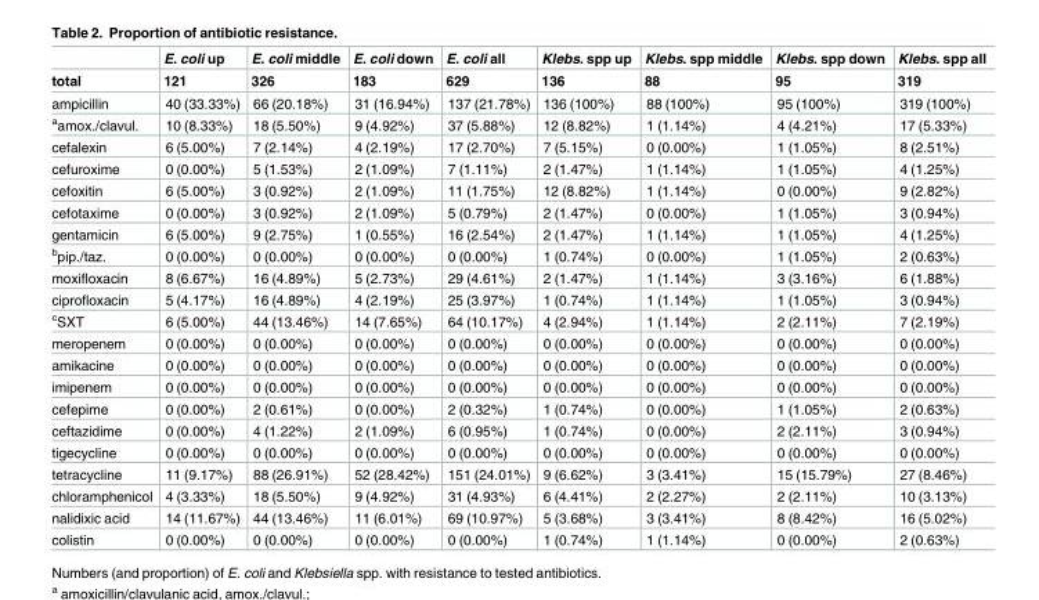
<table><thead><tr><td rowspan="2">total</td><td rowspan="2">E. coli up 121</td><td rowspan="2">E. coli middle 326</td><td rowspan="2">E. coli down 183</td><td rowspan="2">E. coli all 629</td><td rowspan="2">Klebs. spp up 136</td><td rowspan="2">Klebs. spp middle 88</td><td rowspan="2">Klebs. spp down 95</td><td rowspan="2">Klebs. spp all 319</td></tr><tr></tr></thead><tbody><tr><td>ampicillin</td><td>40 (33.33%)</td><td>66 (20.18%)</td><td>31 (16.94%)</td><td>137 (21.78%)</td><td>136 (100%)</td><td>88 (100%)</td><td>95 (100%)</td><td>319 (100%)</td></tr><tr><td><sup>a</sup>amox./clavul.</td><td>10 (8.33%)</td><td>18 (5.50%)</td><td>9 (4.92%)</td><td>37 (5.88%)</td><td>12 (8.82%)</td><td>1 (1.14%)</td><td>4 (4.21%)</td><td>17 (5.33%)</td></tr><tr><td>cefalexin</td><td>6 (5.00%)</td><td>7 (2.14%)</td><td>4 (2.19%)</td><td>17 (2.70%)</td><td>7 (5.15%)</td><td>0 (0.00%)</td><td>1 (1.05%)</td><td>8 (2.51%)</td></tr><tr><td>cefuroxime</td><td>0 (0.00%)</td><td>5 (1.53%)</td><td>2 (1.09%)</td><td>7 (1.11%)</td><td>2 (1.47%)</td><td>1 (1.14%)</td><td>1 (1.05%)</td><td>4 (1.25%)</td></tr><tr><td>cefoxitin</td><td>6 (5.00%)</td><td>3 (0.92%)</td><td>2 (1.09%)</td><td>11 (1.75%)</td><td>12 (8.82%)</td><td>1 (1.14%)</td><td>0 (0.00%)</td><td>9 (2.82%)</td></tr><tr><td>cefotaxime</td><td>0 (0.00%)</td><td>3 (0.92%)</td><td>2 (1.09%)</td><td>5 (0.79%)</td><td>2 (1.47%)</td><td>0 (0.00%)</td><td>1 (1.05%)</td><td>3 (0.94%)</td></tr><tr><td>gentamicin</td><td>6 (5.00%)</td><td>9 (2.75%)</td><td>1 (0.55%)</td><td>16 (2.54%)</td><td>2 (1.47%)</td><td>1 (1.14%)</td><td>1 (1.05%)</td><td>4 (1.25%)</td></tr><tr><td><sup>b</sup>pip./taz.</td><td>0 (0.00%)</td><td>0 (0.00%)</td><td>0 (0.00%)</td><td>0 (0.00%)</td><td>1 (0.74%)</td><td>0 (0.00%)</td><td>1 (1.05%)</td><td>2 (0.63%)</td></tr><tr><td>moxifloxacin</td><td>8 (6.67%)</td><td>16 (4.89%)</td><td>5 (2.73%)</td><td>29 (4.61%)</td><td>2 (1.47%)</td><td>1 (1.14%)</td><td>3 (3.16%)</td><td>6 (1.88%)</td></tr><tr><td>ciprofloxacin</td><td>5 (4.17%)</td><td>16 (4.89%)</td><td>4 (2.19%)</td><td>25 (3.97%)</td><td>1 (0.74%)</td><td>1 (1.14%)</td><td>1 (1.05%)</td><td>3 (0.94%)</td></tr><tr><td><sup>c</sup>SXT</td><td>6 (5.00%)</td><td>44 (13.46%)</td><td>14 (7.65%)</td><td>64 (10.17%)</td><td>4 (2.94%)</td><td>1 (1.14%)</td><td>2 (2.11%)</td><td>7 (2.19%)</td></tr><tr><td>meropenem</td><td>0 (0.00%)</td><td>0 (0.00%)</td><td>0 (0.00%)</td><td>0 (0.00%)</td><td>0 (0.00%)</td><td>0 (0.00%)</td><td>0 (0.00%)</td><td>0 (0.00%)</td></tr><tr><td>amikacine</td><td>0 (0.00%)</td><td>0 (0.00%)</td><td>0 (0.00%)</td><td>0 (0.00%)</td><td>0 (0.00%)</td><td>0 (0.00%)</td><td>0 (0.00%)</td><td>0 (0.00%)</td></tr><tr><td>imipenem</td><td>0 (0.00%)</td><td>0 (0.00%)</td><td>0 (0.00%)</td><td>0 (0.00%)</td><td>0 (0.00%)</td><td>0 (0.00%)</td><td>0 (0.00%)</td><td>0 (0.00%)</td></tr><tr><td>cefepime</td><td>0 (0.00%)</td><td>2 (0.61%)</td><td>0 (0.00%)</td><td>2 (0.32%)</td><td>1 (0.74%)</td><td>0 (0.00%)</td><td>1 (1.05%)</td><td>2 (0.63%)</td></tr><tr><td>ceftazidime</td><td>0 (0.00%)</td><td>4 (1.22%)</td><td>2 (1.09%)</td><td>6 (0.95%)</td><td>1 (0.74%)</td><td>0 (0.00%)</td><td>2 (2.11%)</td><td>3 (0.94%)</td></tr><tr><td>tigecycline</td><td>0 (0.00%)</td><td>0 (0.00%)</td><td>0 (0.00%)</td><td>0 (0.00%)</td><td>0 (0.00%)</td><td>0 (0.00%)</td><td>0 (0.00%)</td><td>0 (0.00%)</td></tr><tr><td>tetracycline</td><td>11 (9.17%)</td><td>88 (26.91%)</td><td>52 (28.42%)</td><td>151 (24.01%)</td><td>9 (6.62%)</td><td>3 (3.41%)</td><td>15 (15.79%)</td><td>27 (8.46%)</td></tr><tr><td>chloramphenicol</td><td>4 (3.33%)</td><td>18 (5.50%)</td><td>9 (4.92%)</td><td>31 (4.93%)</td><td>6 (4.41%)</td><td>2 (2.27%)</td><td>2 (2.11%)</td><td>10 (3.13%)</td></tr><tr><td>nalidixic acid</td><td>14 (11.67%)</td><td>44 (13.46%)</td><td>11 (6.01%)</td><td>69 (10.97%)</td><td>5 (3.68%)</td><td>3 (3.41%)</td><td>8 (8.42%)</td><td>16 (5.02%)</td></tr><tr><td>colistin</td><td>0 (0.00%)</td><td>0 (0.00%)</td><td>0 (0.00%)</td><td>0 (0.00%)</td><td>1 (0.74%)</td><td>1 (1.14%)</td><td>0 (0.00%)</td><td>2 (0.63%)</td></tr></tbody></table>